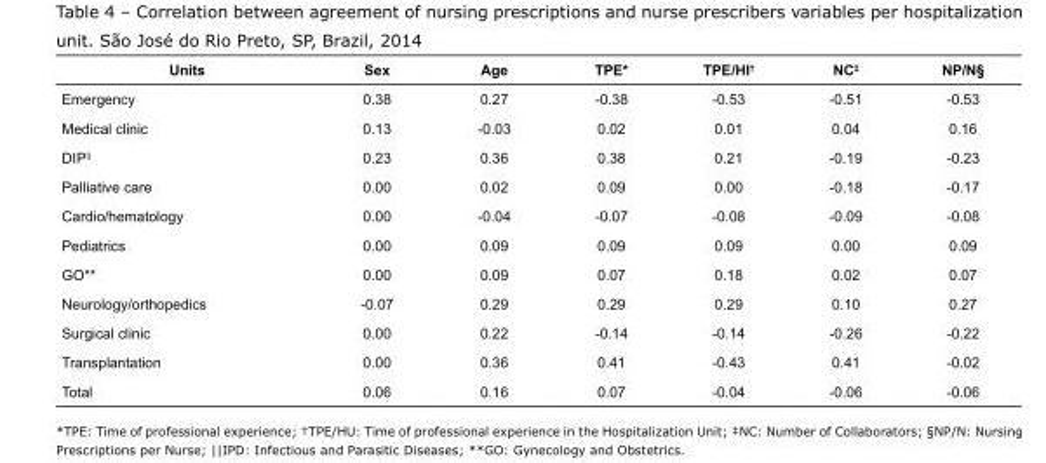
<table><tbody><tr><td>Units</td><td>Sex</td><td>Age</td><td>TPE*</td><td>TPE/HI<sup>†</sup></td><td>NC<sup>‡</sup></td><td>NP/N§</td></tr><tr><td>Emergency</td><td>0.38</td><td>0.27</td><td>-0.38</td><td>-0.53</td><td>-0.51</td><td>-0.53</td></tr><tr><td>Medical clinic</td><td>0.13</td><td>-0.03</td><td>0.02</td><td>0.01</td><td>0.04</td><td>0.16</td></tr><tr><td>DIP<sup>||</sup></td><td>0.23</td><td>0.36</td><td>0.38</td><td>0.21</td><td>-0.19</td><td>-0.23</td></tr><tr><td>Palliative care</td><td>0.00</td><td>0.02</td><td>0.09</td><td>0.00</td><td>-0.18</td><td>-0.17</td></tr><tr><td>Cardio/hematology</td><td>0.00</td><td>-0.04</td><td>-0.07</td><td>-0.08</td><td>-0.09</td><td>-0.08</td></tr><tr><td>Pediatrics</td><td>0.00</td><td>0.09</td><td>0.09</td><td>0.09</td><td>0.00</td><td>0.09</td></tr><tr><td>GO**</td><td>0.00</td><td>0.09</td><td>0.07</td><td>0.18</td><td>0.02</td><td>0.07</td></tr><tr><td>Neurology/orthopedics</td><td>-0.07</td><td>0.29</td><td>0.29</td><td>0.29</td><td>0.10</td><td>0.27</td></tr><tr><td>Surgical clinic</td><td>0.00</td><td>0.22</td><td>-0.14</td><td>-0.14</td><td>-0.26</td><td>-0.22</td></tr><tr><td>Transplantation</td><td>0.00</td><td>0.36</td><td>0.41</td><td>-0.43</td><td>0.41</td><td>-0.02</td></tr><tr><td>Total</td><td>0.06</td><td>0.16</td><td>0.07</td><td>-0.04</td><td>-0.06</td><td>-0.06</td></tr></tbody></table>